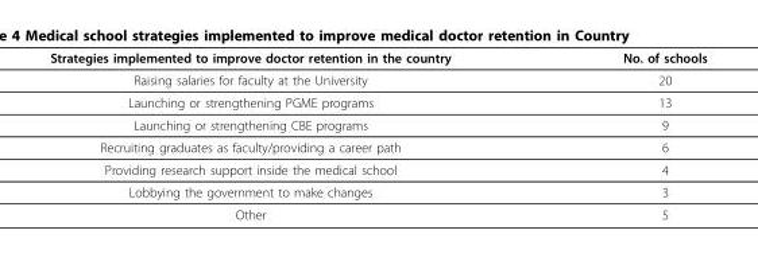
<table><thead><tr><td>Strategies implemented to improve doctor retention in the country</td><td>No. of schools</td></tr></thead><tbody><tr><td>Raising salaries for faculty at the University</td><td>20</td></tr><tr><td>Launching or strengthening PGME programs</td><td>13</td></tr><tr><td>Launching or strengthening CBE programs</td><td>9</td></tr><tr><td>Recruiting graduates as faculty/providing a career path</td><td>6</td></tr><tr><td>Providing research support inside the medical school</td><td>4</td></tr><tr><td>Lobbying the government to make changes</td><td>3</td></tr><tr><td>Other</td><td>5</td></tr></tbody></table>